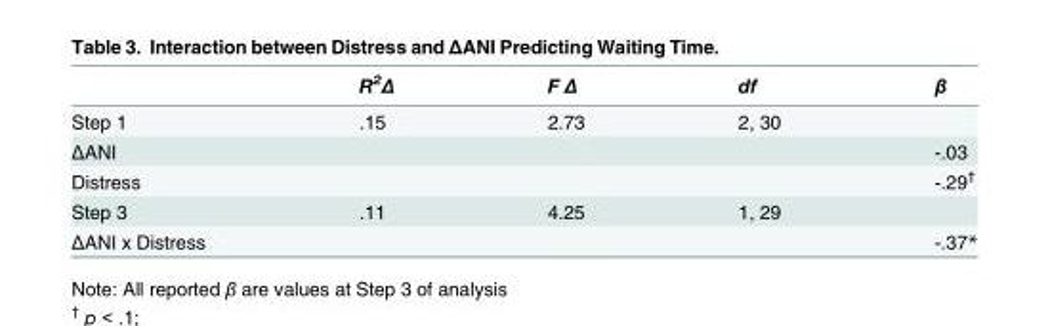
<table><thead><tr><td></td><td>R<sup>2</sup>Δ</td><td>F Δ</td><td>df</td><td>β</td></tr></thead><tbody><tr><td>Step 1</td><td>.15</td><td>2.73</td><td>2, 30</td><td></td></tr><tr><td>ΔANI</td><td></td><td></td><td></td><td>-.03</td></tr><tr><td>Distress</td><td></td><td></td><td></td><td>-.29<sup>†</sup></td></tr><tr><td>Step 3</td><td>.11</td><td>4.25</td><td>1, 29</td><td></td></tr><tr><td>ΔANI x Distress</td><td></td><td></td><td></td><td>-.37*</td></tr></tbody></table>